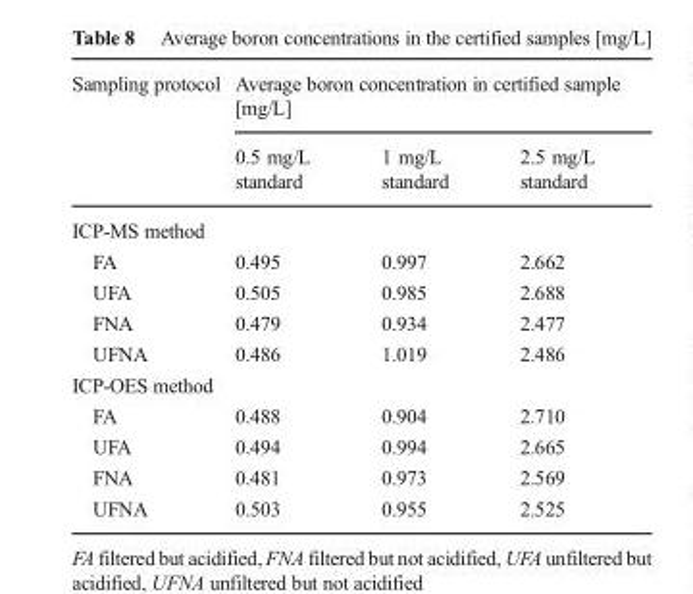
<table><thead><tr><td rowspan="2">Sampling protocol</td><td colspan="3">Average boron concentration in certified sample [mg/L]</td></tr><tr><td>0.5 mg/L standard</td><td>1 mg/L standard</td><td>2.5 mg/L standard</td></tr></thead><tbody><tr><td colspan="4">ICP-MS method</td></tr><tr><td>FA</td><td>0.495</td><td>0.997</td><td>2.662</td></tr><tr><td>UFA</td><td>0.505</td><td>0.985</td><td>2.688</td></tr><tr><td>FNA</td><td>0.479</td><td>0.934</td><td>2.477</td></tr><tr><td>UFNA</td><td>0.486</td><td>1.019</td><td>2.486</td></tr><tr><td colspan="4">ICP-OES method</td></tr><tr><td>FA</td><td>0.488</td><td>0.904</td><td>2.710</td></tr><tr><td>UFA</td><td>0.494</td><td>0.994</td><td>2.665</td></tr><tr><td>FNA</td><td>0.481</td><td>0.973</td><td>2.569</td></tr><tr><td>UFNA</td><td>0.503</td><td>0.955</td><td>2.525</td></tr></tbody></table>